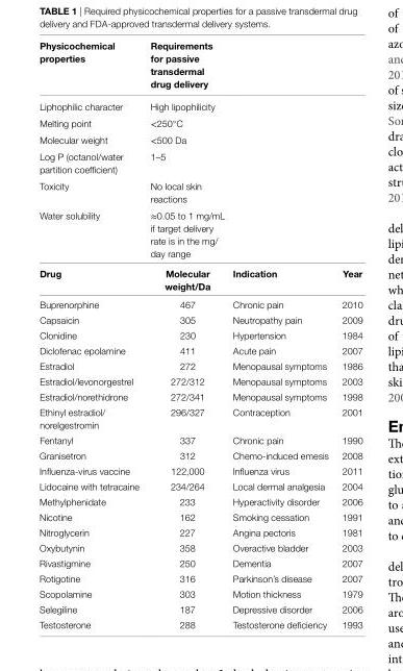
<table><thead><tr><td>Physicochemical properties</td><td>Requirements for passive transdermal drug delivery</td><td></td><td></td></tr></thead><tbody><tr><td>Liphophilic character</td><td>High lipophilicity</td><td></td><td></td></tr><tr><td>Melting point</td><td>&lt;250°C</td><td></td><td></td></tr><tr><td>Molecular weight</td><td>&lt;500 Da</td><td></td><td></td></tr><tr><td>Log P (octanol/water partition coefficient)</td><td>1–5</td><td></td><td></td></tr><tr><td>Toxicity</td><td>No local skin reactions</td><td></td><td></td></tr><tr><td>Water solubility</td><td>≈0.05 to 1 mg/mL if target delivery rate is in the mg/ day range</td><td></td><td></td></tr><tr><td>Drug</td><td>Molecular weight/Da</td><td>indication</td><td>Year</td></tr><tr><td>Buprenorphine</td><td>467</td><td>Chronic pain</td><td>2010</td></tr><tr><td>Capsaicin</td><td>305</td><td>Neutropathy pain</td><td>2009</td></tr><tr><td>Clonidine</td><td>230</td><td>Hypertension</td><td>1984</td></tr><tr><td>Diclofenac epolamine</td><td>411</td><td>Acute pain</td><td>2007</td></tr><tr><td>Estradiol</td><td>272</td><td>Menopausal symptoms</td><td>1986</td></tr><tr><td>Estradiol/levonorgestrel</td><td>272/312</td><td>Menopausal symptoms</td><td>2003</td></tr><tr><td>Estradiol/norethidrone</td><td>272/341</td><td>Menopausal symptoms</td><td>1998</td></tr><tr><td>Ethinyl estradiol/ norelgestromin</td><td>296/327</td><td>Contraception</td><td>2001</td></tr><tr><td>Fentanyl</td><td>337</td><td>Chronic pain</td><td>1990</td></tr><tr><td>Granisetron</td><td>312</td><td>Chemo-induced emesis</td><td>2008</td></tr><tr><td>Influenza-virus vaccine</td><td>122,000</td><td>Influenza virus</td><td>2011</td></tr><tr><td>Lidocaine with tetracaine</td><td>234/264</td><td>Local dermal analgesia</td><td>2004</td></tr><tr><td>Methylphenidate</td><td>233</td><td>Hyperactivity disorder</td><td>2006</td></tr><tr><td>Nicotine</td><td>162</td><td>Smoking cessation</td><td>1991</td></tr><tr><td>Nitroglycerin</td><td>227</td><td>Angina pectoris</td><td>1981</td></tr><tr><td>Oxybutynin</td><td>358</td><td>Overactive bladder</td><td>2003</td></tr><tr><td>Rivastigmine</td><td>250</td><td>Dementia</td><td>2007</td></tr><tr><td>Rotigotine</td><td>316</td><td>Parkinson’s disease</td><td>2007</td></tr><tr><td>Scopolamine</td><td>303</td><td>Motion thickness</td><td>1979</td></tr><tr><td>Selegiline</td><td>187</td><td>Depressive disorder</td><td>2006</td></tr><tr><td>Testosterone</td><td>288</td><td>Testosterone deficiency</td><td>1993</td></tr></tbody></table>